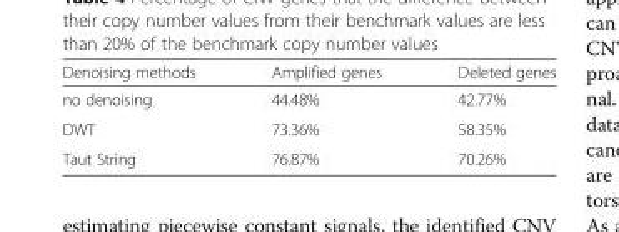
<table><thead><tr><td>Denoising methods</td><td>Amplified genes</td><td>Deleted genes</td></tr></thead><tbody><tr><td>no denoising</td><td>44.48%</td><td>42.77%</td></tr><tr><td>DWT</td><td>73.36%</td><td>58.35%</td></tr><tr><td>Taut String</td><td>76.87%</td><td>70.26%</td></tr></tbody></table>